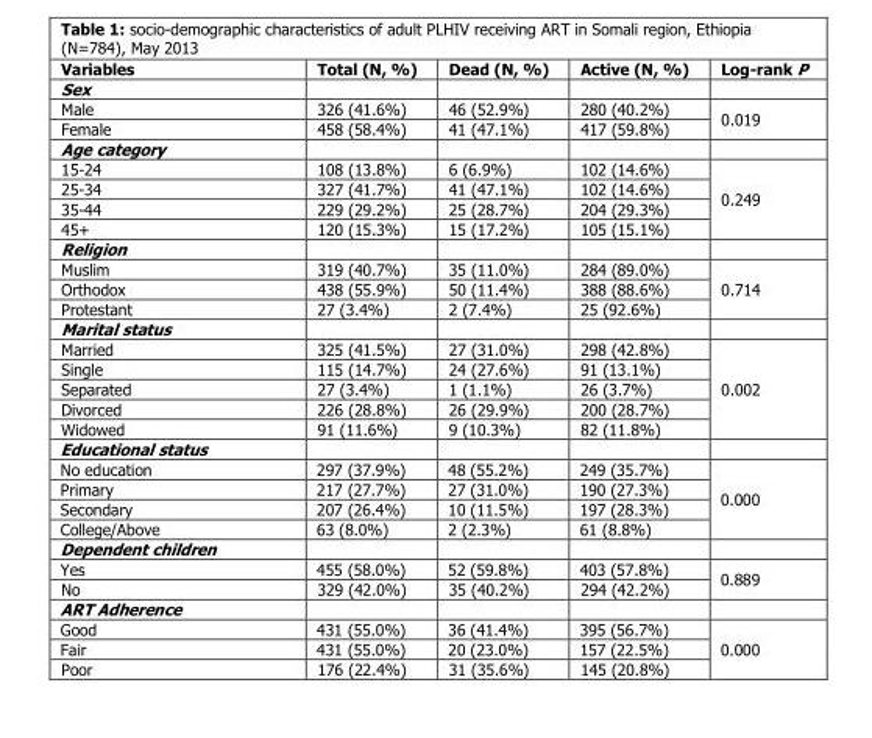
<table><thead><tr><td>Variables</td><td>Total (N, %)</td><td>Dead (N, %)</td><td>Active (N, %)</td><td>Log-rank P</td></tr></thead><tbody><tr><td colspan="5">Sex</td></tr><tr><td>Male</td><td>326 (41.6%)</td><td>46 (52.9%)</td><td>280 (40.2%)</td><td rowspan="2">0.019</td></tr><tr><td>Female</td><td>458 (58.4%)</td><td>41 (47.1%)</td><td>417 (59.8%)</td></tr><tr><td colspan="5">Age category</td></tr><tr><td>15-24</td><td>108 (13.8%)</td><td>6 (6.9%)</td><td>102 (14.6%)</td><td rowspan="4">0.249</td></tr><tr><td>25-34</td><td>327 (41.7%)</td><td>41 (47.1%)</td><td>102 (14.6%)</td></tr><tr><td>35-44</td><td>229 (29.2%)</td><td>25 (28.7%)</td><td>204 (29.3%)</td></tr><tr><td>45+</td><td>120 (15.3%)</td><td>15 (17.2%)</td><td>105 (15.1%)</td></tr><tr><td colspan="5">Religion</td></tr><tr><td>Muslim</td><td>319 (40.7%)</td><td>35 (11.0%)</td><td>284 (89.0%)</td><td rowspan="3">0.714</td></tr><tr><td>Orthodox</td><td>438 (55.9%)</td><td>50 (11.4%)</td><td>388 (88.6%)</td></tr><tr><td>Protestant</td><td>27 (3.4%)</td><td>2 (7.4%)</td><td>25 (92.6%)</td></tr><tr><td colspan="5">Marital status</td></tr><tr><td>Married</td><td>325 (41.5%)</td><td>27 (31.0%)</td><td>298 (42.8%)</td><td rowspan="5">0.002</td></tr><tr><td>Single</td><td>115 (14.7%)</td><td>24 (27.6%)</td><td>91 (13.1%)</td></tr><tr><td>Separated</td><td>27 (3.4%)</td><td>1 (1.1%)</td><td>26 (3.7%)</td></tr><tr><td>Divorced</td><td>226 (28.8%)</td><td>26 (29.9%)</td><td>200 (28.7%)</td></tr><tr><td>Widowed</td><td>91 (11.6%)</td><td>9 (10.3%)</td><td>82 (11.8%)</td></tr><tr><td colspan="5">Educational status</td></tr><tr><td>No education</td><td>297 (37.9%)</td><td>48 (55.2%)</td><td>249 (35.7%)</td><td rowspan="4">0.000</td></tr><tr><td>Primary</td><td>217 (27.7%)</td><td>27 (31.0%)</td><td>190 (27.3%)</td></tr><tr><td>Secondary</td><td>207 (26.4%)</td><td>10 (11.5%)</td><td>197 (28.3%)</td></tr><tr><td>College/Above</td><td>63 (8.0%)</td><td>2 (2.3%)</td><td>61 (8.8%)</td></tr><tr><td colspan="5">Dependent children</td></tr><tr><td>Yes</td><td>455 (58.0%)</td><td>52 (59.8%)</td><td>403 (57.8%)</td><td rowspan="2">0.889</td></tr><tr><td>No</td><td>329 (42.0%)</td><td>35 (40.2%)</td><td>294 (42.2%)</td></tr><tr><td colspan="5">ART Adherence</td></tr><tr><td>Good</td><td>431 (55.0%)</td><td>36 (41.4%)</td><td>395 (56.7%)</td><td rowspan="3">0.000</td></tr><tr><td>Fair</td><td>431 (55.0%)</td><td>20 (23.0%)</td><td>157 (22.5%)</td></tr><tr><td>Poor</td><td>176 (22.4%)</td><td>31 (35.6%)</td><td>145 (20.8%)</td></tr></tbody></table>